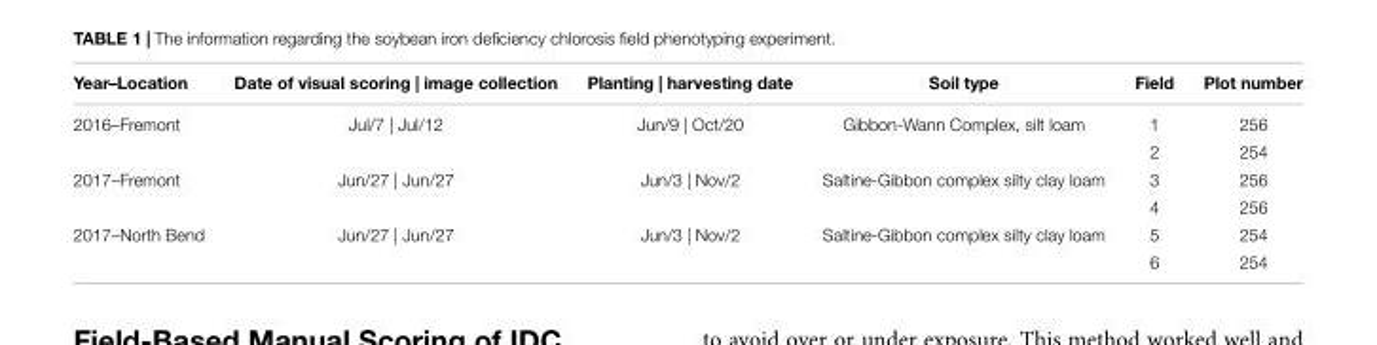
<table><thead><tr><td>Year–Location</td><td>Date of visual scoring | image collection</td><td>Planting | harvesting date</td><td>Soil type</td><td>Field</td><td>Plot number</td></tr></thead><tbody><tr><td rowspan="2">2016–Fremont</td><td>Jul/7 | Jul/12</td><td>Jun/9 | Oct/20</td><td>Gibbon-Wann Complex, silt loam</td><td>1</td><td>256</td></tr><tr><td></td><td></td><td></td><td>2</td><td>254</td></tr><tr><td rowspan="2">2017–Fremont</td><td>Jun/27 | Jun/27</td><td>Jun/3 | Nov/2</td><td>Saltine-Gibbon complex silty clay loam</td><td>3</td><td>256</td></tr><tr><td></td><td></td><td></td><td>4</td><td>256</td></tr><tr><td rowspan="2">2017–North Bend</td><td>Jun/27 | Jun/27</td><td>Jun/3 | Nov/2</td><td>Saltine-Gibbon complex silty clay loam</td><td>5</td><td>254</td></tr><tr><td></td><td></td><td></td><td>6</td><td>254</td></tr></tbody></table>